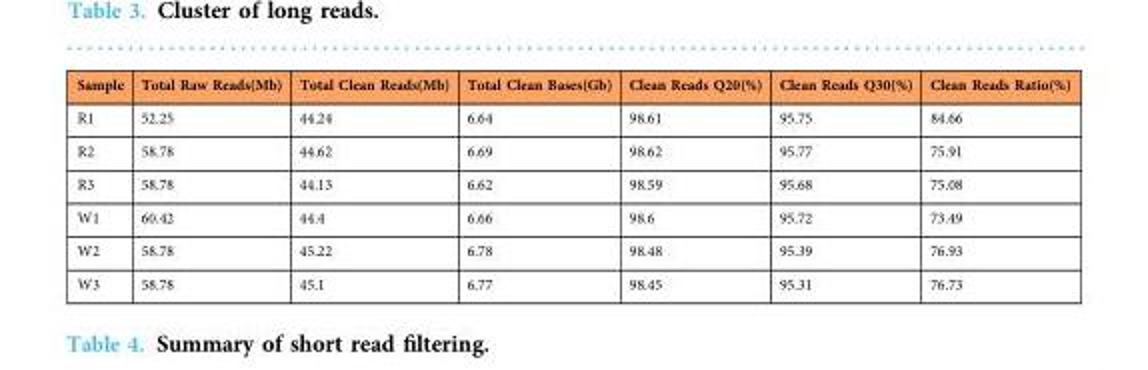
<table><thead><tr><td>Sample</td><td>Total Raw Reads(Mb)</td><td>Total Clean Reads(Mb)</td><td>Total Clean Bases(Gb)</td><td>Clean Reads Q20(%)</td><td>Clean Reads Q30(%)</td><td>Clean Reads Ratio(%)</td></tr></thead><tbody><tr><td>R1</td><td>52.25</td><td>44.24</td><td>6.64</td><td>98.61</td><td>95.75</td><td>84.66</td></tr><tr><td>R2</td><td>58.78</td><td>44.62</td><td>6.69</td><td>98.62</td><td>95.77</td><td>75.91</td></tr><tr><td>R3</td><td>58.78</td><td>44.13</td><td>6.62</td><td>98.59</td><td>95.68</td><td>75.08</td></tr><tr><td>W1</td><td>60.42</td><td>44.4</td><td>6.66</td><td>98.6</td><td>95.72</td><td>73.49</td></tr><tr><td>W2</td><td>58.78</td><td>45.22</td><td>6.78</td><td>98.48</td><td>95.39</td><td>76.93</td></tr><tr><td>W3</td><td>58.78</td><td>45.1</td><td>6.77</td><td>98.45</td><td>95.31</td><td>76.73</td></tr></tbody></table>